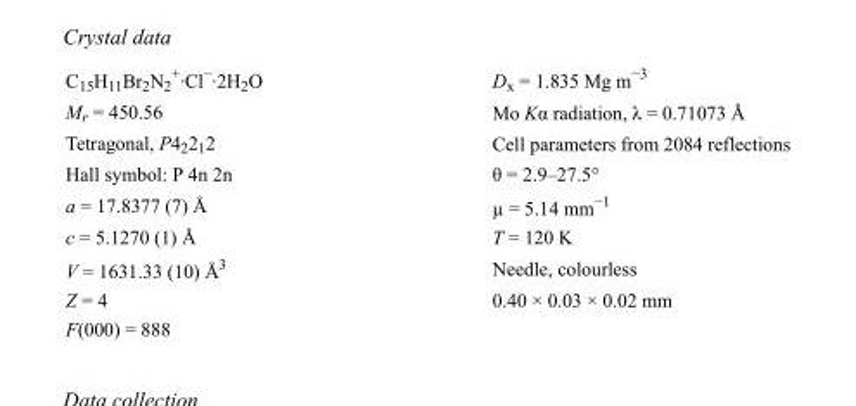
<table><tbody><tr><td>C<sub>15</sub>H<sub>11</sub>Br<sub>2</sub>N<sub>2</sub> <sup>+</sup>·Cl<sup>−</sup>·2H<sub>2</sub>O</td><td>D<sub>x</sub> = 1.835 Mg m<sup>−3</sup></td></tr><tr><td>M<sub>r</sub> = 450.56</td><td>Mo Kα radiation, λ = 0.71073 Å</td></tr><tr><td>Tetragonal, P4<sub>2</sub>2<sub>1</sub>2</td><td>Cell parameters from 2084 reflections</td></tr><tr><td>Hall symbol: P 4n 2n</td><td>θ = 2.9–27.5°</td></tr><tr><td>a = 17.8377 (7) Å</td><td>µ = 5.14 mm<sup>−1</sup></td></tr><tr><td>c = 5.1270 (1) Å</td><td>T = 120 K</td></tr><tr><td>V = 1631.33 (10) Å<sup>3</sup></td><td>Needle, colourless</td></tr><tr><td>Z = 4</td><td>0.40 × 0.03 × 0.02 mm</td></tr><tr><td>F(000) = 888</td><td></td></tr></tbody></table>